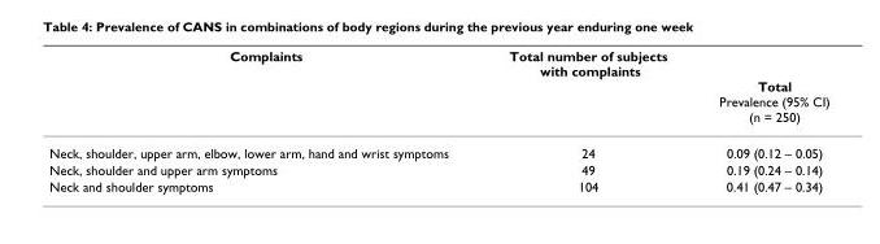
<table><thead><tr><td>Complaints</td><td>Total number of subjects with complaints</td><td>Total Prevalence (95% CI) (n = 250)</td></tr></thead><tbody><tr><td>Neck, shoulder, upper arm, elbow, lower arm, hand and wrist symptoms</td><td>24</td><td>0.09 (0.12 – 0.05)</td></tr><tr><td>Neck, shoulder and upper arm symptoms</td><td>49</td><td>0.19 (0.24 – 0.14)</td></tr><tr><td>Neck and shoulder symptoms</td><td>104</td><td>0.41 (0.47 – 0.34)</td></tr></tbody></table>